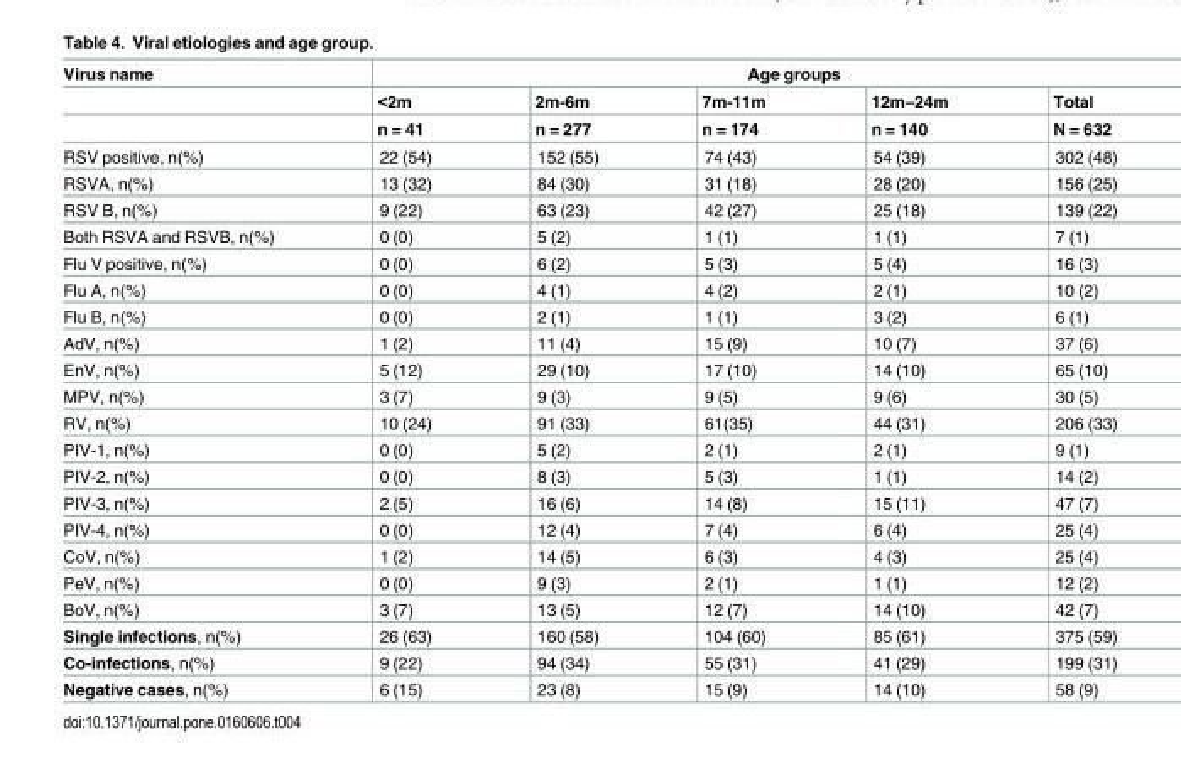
<table><thead><tr><td rowspan="3">Virus name</td><td colspan="5">Age groups</td></tr><tr><td rowspan="2">&lt;2m n = 41</td><td rowspan="2">2m-6m n = 277</td><td rowspan="2">7m-11m n = 174</td><td rowspan="2">12m–24m n = 140</td><td rowspan="2">Total N = 632</td></tr><tr></tr></thead><tbody><tr><td>RSV positive, n(%)</td><td>22 (54)</td><td>152 (55)</td><td>74 (43)</td><td>54 (39)</td><td>302 (48)</td></tr><tr><td>RSVA, n(%)</td><td>13 (32)</td><td>84 (30)</td><td>31 (18)</td><td>28 (20)</td><td>156 (25)</td></tr><tr><td>RSV B, n(%)</td><td>9 (22)</td><td>63 (23)</td><td>42 (27)</td><td>25 (18)</td><td>139 (22)</td></tr><tr><td>Both RSVA and RSVB, n(%)</td><td>0 (0)</td><td>5 (2)</td><td>1 (1)</td><td>1 (1)</td><td>7 (1)</td></tr><tr><td>Flu V positive, n(%)</td><td>0 (0)</td><td>6 (2)</td><td>5 (3)</td><td>5 (4)</td><td>16 (3)</td></tr><tr><td>Flu A, n(%)</td><td>0 (0)</td><td>4 (1)</td><td>4 (2)</td><td>2 (1)</td><td>10 (2)</td></tr><tr><td>Flu B, n(%)</td><td>0 (0)</td><td>2 (1)</td><td>1 (1)</td><td>3 (2)</td><td>6 (1)</td></tr><tr><td>AdV, n(%)</td><td>1 (2)</td><td>11 (4)</td><td>15 (9)</td><td>10 (7)</td><td>37 (6)</td></tr><tr><td>EnV, n(%)</td><td>5 (12)</td><td>29 (10)</td><td>17 (10)</td><td>14 (10)</td><td>65 (10)</td></tr><tr><td>MPV, n(%)</td><td>3 (7)</td><td>9 (3)</td><td>9 (5)</td><td>9 (6)</td><td>30 (5)</td></tr><tr><td>RV, n(%)</td><td>10 (24)</td><td>91 (33)</td><td>61(35)</td><td>44 (31)</td><td>206 (33)</td></tr><tr><td>PIV-1, n(%)</td><td>0 (0)</td><td>5 (2)</td><td>2 (1)</td><td>2 (1)</td><td>9 (1)</td></tr><tr><td>PIV-2, n(%)</td><td>0 (0)</td><td>8 (3)</td><td>5 (3)</td><td>1 (1)</td><td>14 (2)</td></tr><tr><td>PIV-3, n(%)</td><td>2 (5)</td><td>16 (6)</td><td>14 (8)</td><td>15 (11)</td><td>47 (7)</td></tr><tr><td>PIV-4, n(%)</td><td>0 (0)</td><td>12 (4)</td><td>7 (4)</td><td>6 (4)</td><td>25 (4)</td></tr><tr><td>CoV, n(%)</td><td>1 (2)</td><td>14 (5)</td><td>6 (3)</td><td>4 (3)</td><td>25 (4)</td></tr><tr><td>PeV, n(%)</td><td>0 (0)</td><td>9 (3)</td><td>2 (1)</td><td>1 (1)</td><td>12 (2)</td></tr><tr><td>BoV, n(%)</td><td>3 (7)</td><td>13 (5)</td><td>12 (7)</td><td>14 (10)</td><td>42 (7)</td></tr><tr><td>Single infections, n(%)</td><td>26 (63)</td><td>160 (58)</td><td>104 (60)</td><td>85 (61)</td><td>375 (59)</td></tr><tr><td>Co-infections, n(%)</td><td>9 (22)</td><td>94 (34)</td><td>55 (31)</td><td>41 (29)</td><td>199 (31)</td></tr><tr><td>Negative cases, n(%)</td><td>6 (15)</td><td>23 (8)</td><td>15 (9)</td><td>14 (10)</td><td>58 (9)</td></tr></tbody></table>